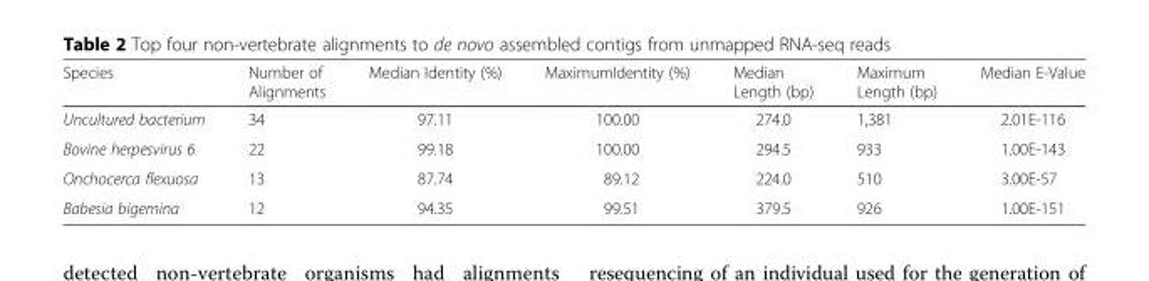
<table><thead><tr><td>Species</td><td>Number of Alignments</td><td>Median Identity (%)</td><td>MaximumIdentity (%)</td><td>Median Length (bp)</td><td>Maximum Length (bp)</td><td>Median E-Value</td></tr></thead><tbody><tr><td>Uncultured bacterium</td><td>34</td><td>97.11</td><td>100.00</td><td>274.0</td><td>1,381</td><td>2.01E-116</td></tr><tr><td>Bovine herpesvirus 6</td><td>22</td><td>99.18</td><td>100.00</td><td>294.5</td><td>933</td><td>1.00E-143</td></tr><tr><td>Onchocerca flexuosa</td><td>13</td><td>87.74</td><td>89.12</td><td>224.0</td><td>510</td><td>3.00E-57</td></tr><tr><td>Babesia bigemina</td><td>12</td><td>94.35</td><td>99.51</td><td>379.5</td><td>926</td><td>1.00E-151</td></tr></tbody></table>